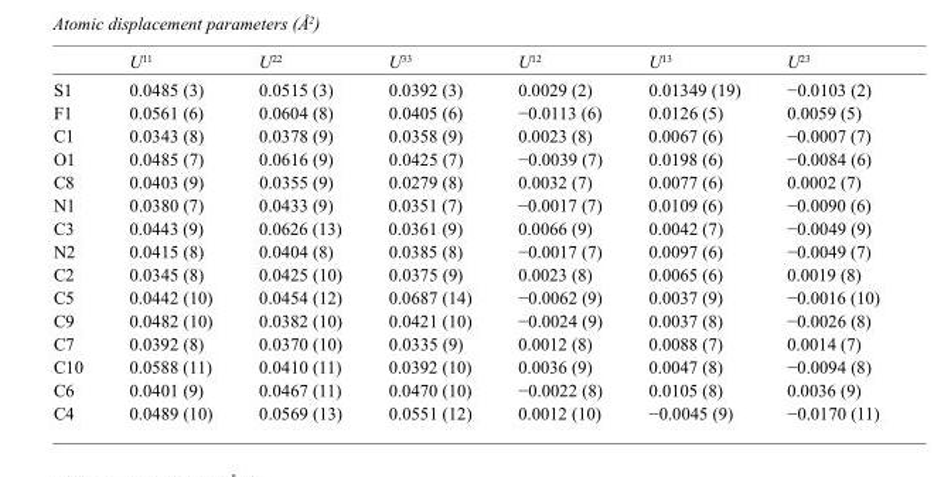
<table><thead><tr><td></td><td>U<sup>11</sup></td><td>U<sup>22</sup></td><td>U<sup>33</sup></td><td>U<sup>12</sup></td><td>U<sup>13</sup></td><td>U<sup>23</sup></td></tr></thead><tbody><tr><td>S1</td><td>0.0485 (3)</td><td>0.0515 (3)</td><td>0.0392 (3)</td><td>0.0029 (2)</td><td>0.01349 (19)</td><td>−0.0103 (2)</td></tr><tr><td>F1</td><td>0.0561 (6)</td><td>0.0604 (8)</td><td>0.0405 (6)</td><td>−0.0113 (6)</td><td>0.0126 (5)</td><td>0.0059 (5)</td></tr><tr><td>C1</td><td>0.0343 (8)</td><td>0.0378 (9)</td><td>0.0358 (9)</td><td>0.0023 (8)</td><td>0.0067 (6)</td><td>−0.0007 (7)</td></tr><tr><td>O1</td><td>0.0485 (7)</td><td>0.0616 (9)</td><td>0.0425 (7)</td><td>−0.0039 (7)</td><td>0.0198 (6)</td><td>−0.0084 (6)</td></tr><tr><td>C8</td><td>0.0403 (9)</td><td>0.0355 (9)</td><td>0.0279 (8)</td><td>0.0032 (7)</td><td>0.0077 (6)</td><td>0.0002 (7)</td></tr><tr><td>N1</td><td>0.0380 (7)</td><td>0.0433 (9)</td><td>0.0351 (7)</td><td>−0.0017 (7)</td><td>0.0109 (6)</td><td>−0.0090 (6)</td></tr><tr><td>C3</td><td>0.0443 (9)</td><td>0.0626 (13)</td><td>0.0361 (9)</td><td>0.0066 (9)</td><td>0.0042 (7)</td><td>−0.0049 (9)</td></tr><tr><td>N2</td><td>0.0415 (8)</td><td>0.0404 (8)</td><td>0.0385 (8)</td><td>−0.0017 (7)</td><td>0.0097 (6)</td><td>−0.0049 (7)</td></tr><tr><td>C2</td><td>0.0345 (8)</td><td>0.0425 (10)</td><td>0.0375 (9)</td><td>0.0023 (8)</td><td>0.0065 (6)</td><td>0.0019 (8)</td></tr><tr><td>C5</td><td>0.0442 (10)</td><td>0.0454 (12)</td><td>0.0687 (14)</td><td>−0.0062 (9)</td><td>0.0037 (9)</td><td>−0.0016 (10)</td></tr><tr><td>C9</td><td>0.0482 (10)</td><td>0.0382 (10)</td><td>0.0421 (10)</td><td>−0.0024 (9)</td><td>0.0037 (8)</td><td>−0.0026 (8)</td></tr><tr><td>C7</td><td>0.0392 (8)</td><td>0.0370 (10)</td><td>0.0335 (9)</td><td>0.0012 (8)</td><td>0.0088 (7)</td><td>0.0014 (7)</td></tr><tr><td>C10</td><td>0.0588 (11)</td><td>0.0410 (11)</td><td>0.0392 (10)</td><td>0.0036 (9)</td><td>0.0047 (8)</td><td>−0.0094 (8)</td></tr><tr><td>C6</td><td>0.0401 (9)</td><td>0.0467 (11)</td><td>0.0470 (10)</td><td>−0.0022 (8)</td><td>0.0105 (8)</td><td>0.0036 (9)</td></tr><tr><td>C4</td><td>0.0489 (10)</td><td>0.0569 (13)</td><td>0.0551 (12)</td><td>0.0012 (10)</td><td>−0.0045 (9)</td><td>−0.0170 (11)</td></tr></tbody></table>